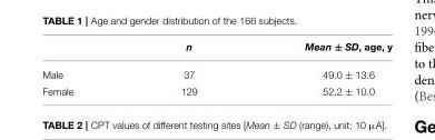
<table><thead><tr><td></td><td>n</td><td>Mean ± SD, age, y</td></tr></thead><tbody><tr><td>Male</td><td>37</td><td>49.0 ± 13.6</td></tr><tr><td>Female</td><td>129</td><td>52.2 ± 10.0</td></tr></tbody></table>